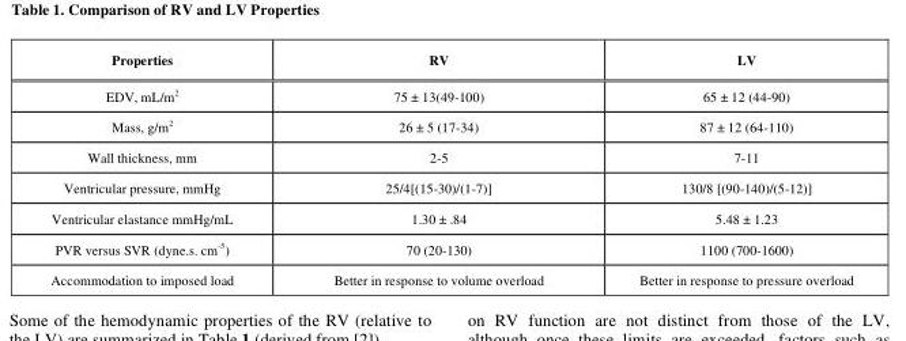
<table><thead><tr><td>Properties</td><td>RV</td><td>LV</td></tr></thead><tbody><tr><td>EDV, mL/m<sup>2</sup></td><td>75 ± 13(49-100)</td><td>65 ± 12 (44-90)</td></tr><tr><td>Mass, g/m<sup>2</sup></td><td>26 ± 5 (17-34)</td><td>87 ± 12 (64-110)</td></tr><tr><td>Wall thickness, mm</td><td>2-5</td><td>7-11</td></tr><tr><td>Ventricular pressure, mmHg</td><td>25/4[(15-30)/(1-7)]</td><td>130/8 [(90-140)/(5-12)]</td></tr><tr><td>Ventricular elastance mmHg/mL</td><td>1.30 ± .84</td><td>5.48 ± 1.23</td></tr><tr><td>PVR versus SVR (dyne.s. cm<sup>-5</sup>)</td><td>70 (20-130)</td><td>1100 (700-1600)</td></tr><tr><td>Accommodation to imposed load</td><td>Better in response to volume overload</td><td>Better in response to pressure overload</td></tr></tbody></table>